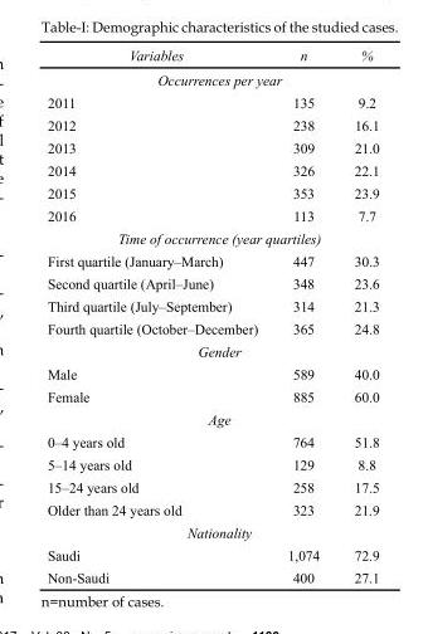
<table><thead><tr><td>Variables</td><td>n</td><td>%</td></tr></thead><tbody><tr><td colspan="3">Occurrences per year</td></tr><tr><td>2011</td><td>135</td><td>9.2</td></tr><tr><td>2012</td><td>238</td><td>16.1</td></tr><tr><td>2013</td><td>309</td><td>21.0</td></tr><tr><td>2014</td><td>326</td><td>22.1</td></tr><tr><td>2015</td><td>353</td><td>23.9</td></tr><tr><td>2016</td><td>113</td><td>7.7</td></tr><tr><td colspan="3">Time of occurrence (year quartiles)</td></tr><tr><td>First quartile (January–March)</td><td>447</td><td>30.3</td></tr><tr><td>Second quartile (April–June)</td><td>348</td><td>23.6</td></tr><tr><td>Third quartile (July–September)</td><td>314</td><td>21.3</td></tr><tr><td>Fourth quartile (October–December)</td><td>365</td><td>24.8</td></tr><tr><td colspan="3">Gender</td></tr><tr><td>Male</td><td>589</td><td>40.0</td></tr><tr><td>Female</td><td>885</td><td>60.0</td></tr><tr><td colspan="3">Age</td></tr><tr><td>0–4 years old</td><td>764</td><td>51.8</td></tr><tr><td>5–14 years old</td><td>129</td><td>8.8</td></tr><tr><td>15–24 years old</td><td>258</td><td>17.5</td></tr><tr><td>Older than 24 years old</td><td>323</td><td>21.9</td></tr><tr><td colspan="3">Nationality</td></tr><tr><td>Saudi</td><td>1,074</td><td>72.9</td></tr><tr><td>Non-Saudi</td><td>400</td><td>27.1</td></tr></tbody></table>